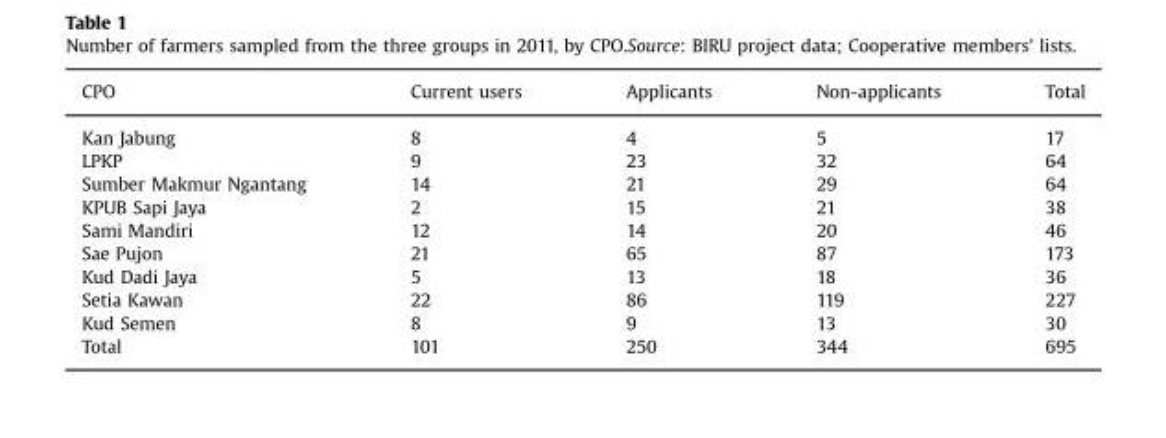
<table><thead><tr><td>CPO</td><td>Current users</td><td>Applicants</td><td>Non-applicants</td><td>Total</td></tr></thead><tbody><tr><td>Kan Jabung</td><td>8</td><td>4</td><td>5</td><td>17</td></tr><tr><td>LPKP</td><td>9</td><td>23</td><td>32</td><td>64</td></tr><tr><td>Sumber Makmur Ngantang</td><td>14</td><td>21</td><td>29</td><td>64</td></tr><tr><td>KPUB Sapi Jaya</td><td>2</td><td>15</td><td>21</td><td>38</td></tr><tr><td>Sami Mandiri</td><td>12</td><td>14</td><td>20</td><td>46</td></tr><tr><td>Sae Pujon</td><td>21</td><td>65</td><td>87</td><td>173</td></tr><tr><td>Kud Dadi Jaya</td><td>5</td><td>13</td><td>18</td><td>36</td></tr><tr><td>Setia Kawan</td><td>22</td><td>86</td><td>119</td><td>227</td></tr><tr><td>Kud Semen</td><td>8</td><td>9</td><td>13</td><td>30</td></tr><tr><td>Total</td><td>101</td><td>250</td><td>344</td><td>695</td></tr></tbody></table>